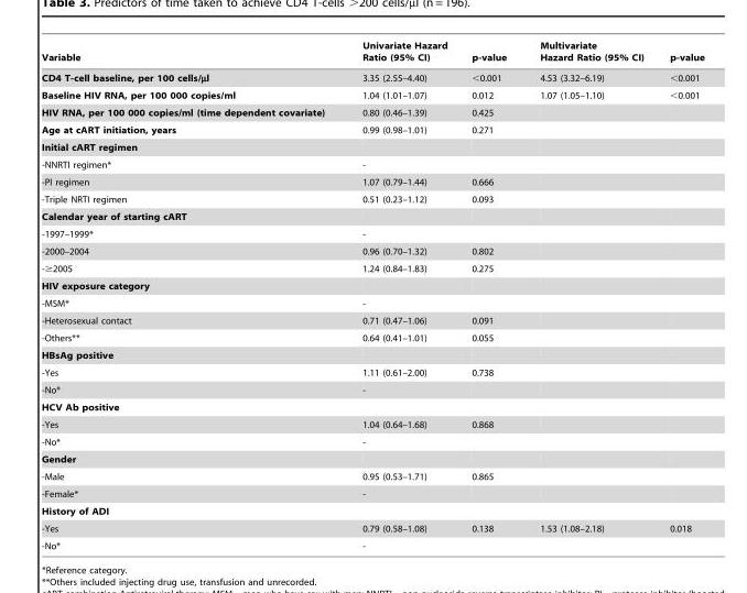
<table><thead><tr><td>Variable</td><td>Univariate Hazard Ratio (95% CI)</td><td>p-value</td><td>Multivariate Hazard Ratio (95% CI)</td><td>p-value</td></tr></thead><tbody><tr><td>CD4 T-cell baseline, per 100 cells/µl</td><td>3.35 (2.55–4.40)</td><td>&lt;0.001</td><td>4.53 (3.32–6.19)</td><td>&lt;0.001</td></tr><tr><td>Baseline HIV RNA, per 100 000 copies/ml</td><td>1.04 (1.01–1.07)</td><td>0.012</td><td>1.07 (1.05–1.10)</td><td>&lt;0.001</td></tr><tr><td>HIV RNA, per 100 000 copies/ml (time dependent covariate)</td><td>0.80 (0.46–1.39)</td><td>0.425</td><td></td><td></td></tr><tr><td>Age at cART initiation, years</td><td>0.99 (0.98–1.01)</td><td>0.271</td><td></td><td></td></tr><tr><td colspan="5">Initial cART regimen</td></tr><tr><td>-NNRTI regimen*</td><td>-</td><td></td><td></td><td></td></tr><tr><td>-PI regimen</td><td>1.07 (0.79–1.44)</td><td>0.666</td><td></td><td></td></tr><tr><td>-Triple NRTI regimen</td><td>0.51 (0.23–1.12)</td><td>0.093</td><td></td><td></td></tr><tr><td colspan="5">Calendar year of starting cART</td></tr><tr><td>-1997–1999*</td><td>-</td><td></td><td></td><td></td></tr><tr><td>-2000–2004</td><td>0.96 (0.70–1.32)</td><td>0.802</td><td></td><td></td></tr><tr><td>-≥2005</td><td>1.24 (0.84–1.83)</td><td>0.275</td><td></td><td></td></tr><tr><td colspan="5">HIV exposure category</td></tr><tr><td>-MSM*</td><td>-</td><td></td><td></td><td></td></tr><tr><td>-Heterosexual contact</td><td>0.71 (0.47–1.06)</td><td>0.091</td><td></td><td></td></tr><tr><td>-Others**</td><td>0.64 (0.41–1.01)</td><td>0.055</td><td></td><td></td></tr><tr><td colspan="5">HBsAg positive</td></tr><tr><td>-Yes</td><td>1.11 (0.61–2.00)</td><td>0.738</td><td></td><td></td></tr><tr><td>-No*</td><td>-</td><td></td><td></td><td></td></tr><tr><td colspan="5">HCV Ab positive</td></tr><tr><td>-Yes</td><td>1.04 (0.64–1.68)</td><td>0.868</td><td></td><td></td></tr><tr><td>-No*</td><td>-</td><td></td><td></td><td></td></tr><tr><td colspan="5">Gender</td></tr><tr><td>-Male</td><td>0.95 (0.53–1.71)</td><td>0.865</td><td></td><td></td></tr><tr><td>-Female*</td><td>-</td><td></td><td></td><td></td></tr><tr><td colspan="5">History of ADI</td></tr><tr><td>-Yes</td><td>0.79 (0.58–1.08)</td><td>0.138</td><td>1.53 (1.08–2.18)</td><td>0.018</td></tr><tr><td>-No*</td><td>-</td><td></td><td></td><td></td></tr></tbody></table>